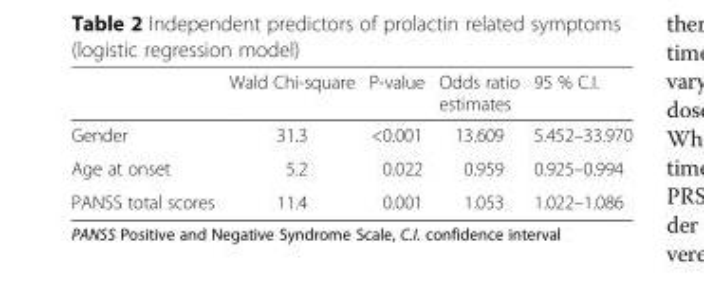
<table><thead><tr><td></td><td>Wald Chi-square</td><td>P-value</td><td>Odds ratio estimates</td><td>95 % C.I.</td></tr></thead><tbody><tr><td>Gender</td><td>31.3</td><td>&lt;0.001</td><td>13.609</td><td>5.452–33.970</td></tr><tr><td>Age at onset</td><td>5.2</td><td>0.022</td><td>0.959</td><td>0.925–0.994</td></tr><tr><td>PANSS total scores</td><td>11.4</td><td>0.001</td><td>1.053</td><td>1.022–1.086</td></tr></tbody></table>